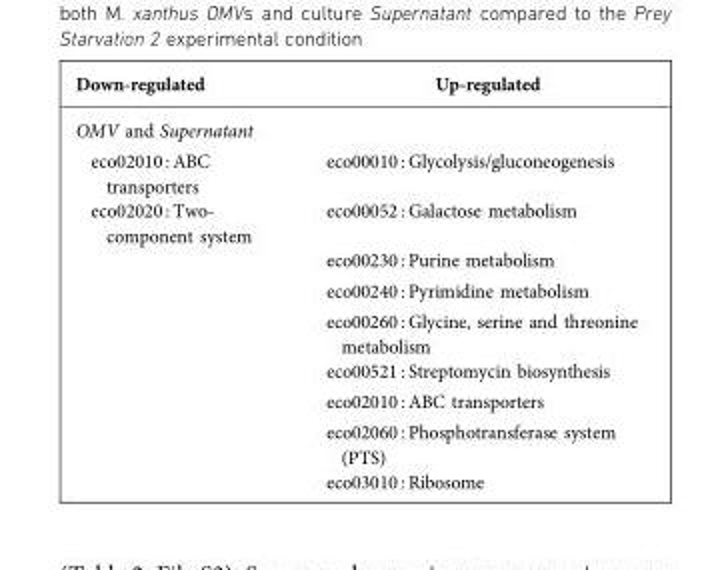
<table><thead><tr><td>Down-regulated</td><td>Up-regulated</td></tr></thead><tbody><tr><td colspan="2">OMV and Supernatant</td></tr><tr><td>eco02010 : ABC transporters</td><td>eco00010 : Glycolysis/gluconeogenesis</td></tr><tr><td rowspan="8">eco02020 : Two- component system</td><td>eco00052 : Galactose metabolism</td></tr><tr><td>eco00230 : Purine metabolism</td></tr><tr><td>eco00240 : Pyrimidine metabolism</td></tr><tr><td>eco00260 : Glycine, serine and threonine metabolism</td></tr><tr><td>eco00521 : Streptomycin biosynthesis</td></tr><tr><td>eco02010 : ABC transporters</td></tr><tr><td>eco02060 : Phosphotransferase system (PTS)</td></tr><tr><td>eco03010 : Ribosome</td></tr></tbody></table>